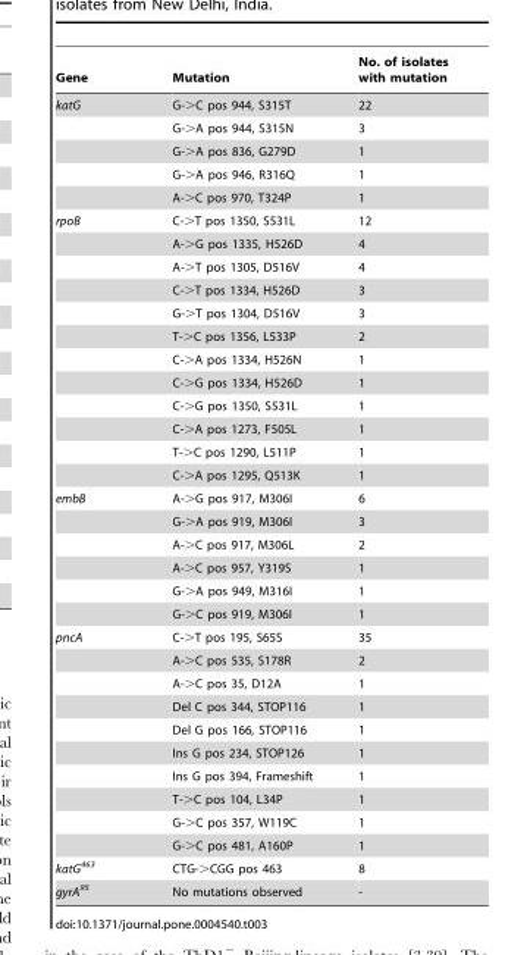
<table><thead><tr><td>Gene</td><td>Mutation</td><td>No. of isolates with mutation</td></tr></thead><tbody><tr><td rowspan="5">katG</td><td>G-&gt;C pos 944, S315T</td><td>22</td></tr><tr><td>G-&gt;A pos 944, S315N</td><td>3</td></tr><tr><td>G-&gt;A pos 836, G279D</td><td>1</td></tr><tr><td>G-&gt;A pos 946, R316Q</td><td>1</td></tr><tr><td>A-&gt;C pos 970, T324P</td><td>1</td></tr><tr><td rowspan="12">rpoB</td><td>C-&gt;T pos 1350, S531L</td><td>12</td></tr><tr><td>A-&gt;G pos 1335, H526D</td><td>4</td></tr><tr><td>A-&gt;T pos 1305, D516V</td><td>4</td></tr><tr><td>C-&gt;T pos 1334, H526D</td><td>3</td></tr><tr><td>G-&gt;T pos 1304, D516V</td><td>3</td></tr><tr><td>T-&gt;C pos 1356, L533P</td><td>2</td></tr><tr><td>C-&gt;A pos 1334, H526N</td><td>1</td></tr><tr><td>C-&gt;G pos 1334, H526D</td><td>1</td></tr><tr><td>C-&gt;G pos 1350, S531L</td><td>1</td></tr><tr><td>C-&gt;A pos 1273, F505L</td><td>1</td></tr><tr><td>T-&gt;C pos 1290, L511P</td><td>1</td></tr><tr><td>C-&gt;A pos 1295, Q513K</td><td>1</td></tr><tr><td rowspan="6">embB</td><td>A-&gt;G pos 917, M306I</td><td>6</td></tr><tr><td>G-&gt;A pos 919, M306I</td><td>3</td></tr><tr><td>A-&gt;C pos 917, M306L</td><td>2</td></tr><tr><td>A-&gt;C pos 957, Y319S</td><td>1</td></tr><tr><td>G-&gt;A pos 949, M316I</td><td>1</td></tr><tr><td>G-&gt;C pos 919, M306I</td><td>1</td></tr><tr><td rowspan="10">pncA</td><td>C-&gt;T pos 195, S65S</td><td>35</td></tr><tr><td>A-&gt;C pos 535, S178R</td><td>2</td></tr><tr><td>A-&gt;C pos 35, D12A</td><td>1</td></tr><tr><td>Del C pos 344, STOP116</td><td>1</td></tr><tr><td>Del G pos 166, STOP116</td><td>1</td></tr><tr><td>Ins G pos 234, STOP126</td><td>1</td></tr><tr><td>Ins G pos 394, Frameshift</td><td>1</td></tr><tr><td>T-&gt;C pos 104, L34P</td><td>1</td></tr><tr><td>G-&gt;C pos 357, W119C</td><td>1</td></tr><tr><td>G-&gt;C pos 481, A160P</td><td>1</td></tr><tr><td>katG<sup>463</sup></td><td>CTG-&gt;CGG pos 463</td><td>8</td></tr><tr><td>gyrA<sup>95</sup></td><td>No mutations observed</td><td>-</td></tr></tbody></table>